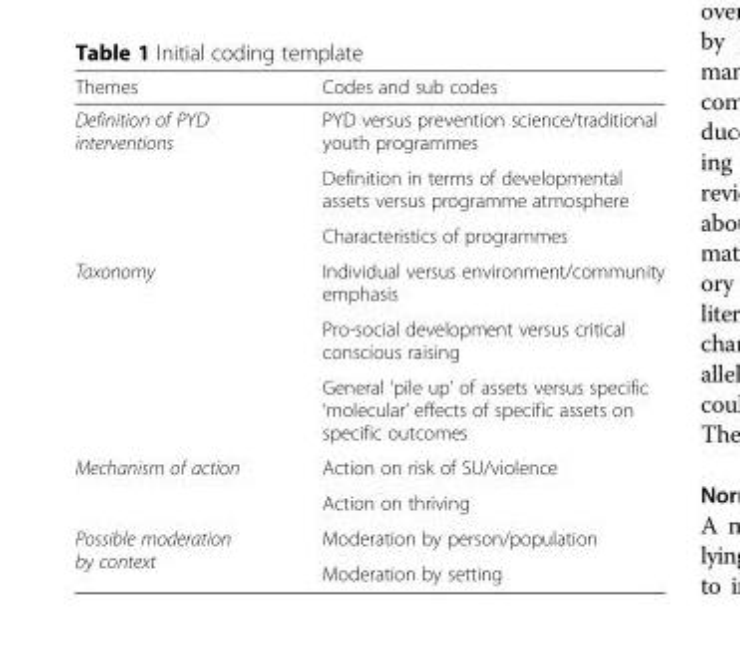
<table><thead><tr><td>Themes</td><td>Codes and sub codes</td></tr></thead><tbody><tr><td rowspan="3">Definition of PYD interventions</td><td>PYD versus prevention science/traditional youth programmes</td></tr><tr><td>Definition in terms of developmental assets versus programme atmosphere</td></tr><tr><td>Characteristics of programmes</td></tr><tr><td rowspan="3">Taxonomy</td><td>Individual versus environment/community emphasis</td></tr><tr><td>Pro-social development versus critical conscious raising</td></tr><tr><td>General ‘pile up’ of assets versus specific ‘molecular’ effects of specific assets on specific outcomes</td></tr><tr><td rowspan="2">Mechanism of action</td><td>Action on risk of SU/violence</td></tr><tr><td>Action on thriving</td></tr><tr><td rowspan="2">Possible moderation by context</td><td>Moderation by person/population</td></tr><tr><td>Moderation by setting</td></tr></tbody></table>